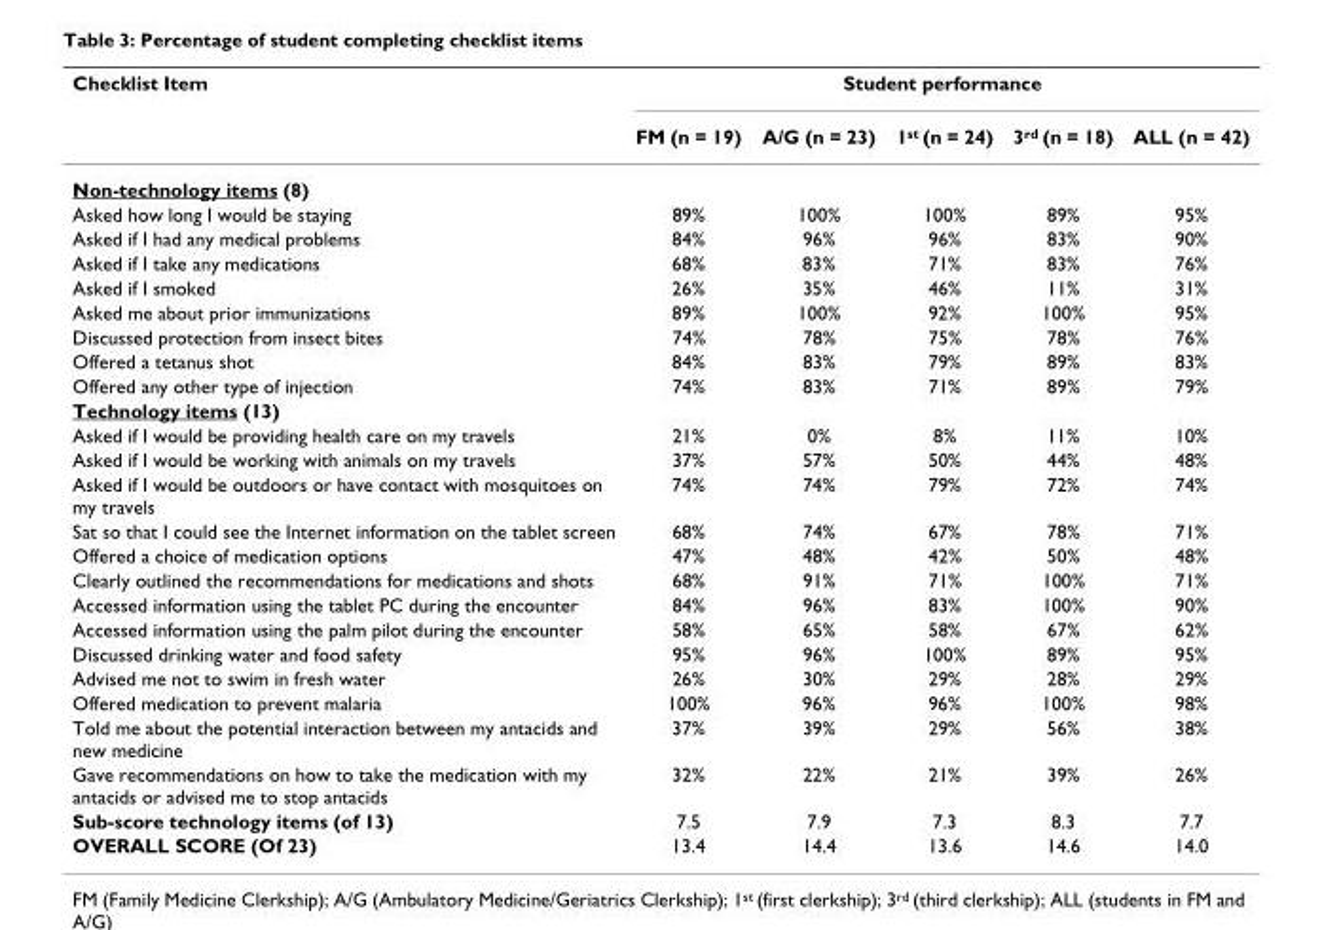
<table><thead><tr><td rowspan="2">Checklist Item</td><td colspan="5">Student performance</td></tr><tr><td>FM (n = 19)</td><td>A/G (n = 23)</td><td>1st (n = 24)</td><td>3rd (n = 18)</td><td>ALL (n = 42)</td></tr></thead><tbody><tr><td colspan="6">Non-technology items (8)</td></tr><tr><td>Asked how long I would be staying</td><td>89%</td><td>100%</td><td>100%</td><td>89%</td><td>95%</td></tr><tr><td>Asked if I had any medical problems</td><td>84%</td><td>96%</td><td>96%</td><td>83%</td><td>90%</td></tr><tr><td>Asked if I take any medications</td><td>68%</td><td>83%</td><td>71%</td><td>83%</td><td>76%</td></tr><tr><td>Asked if I smoked</td><td>26%</td><td>35%</td><td>46%</td><td>11%</td><td>31%</td></tr><tr><td>Asked me about prior immunizations</td><td>89%</td><td>100%</td><td>92%</td><td>100%</td><td>95%</td></tr><tr><td>Discussed protection from insect bites</td><td>74%</td><td>78%</td><td>75%</td><td>78%</td><td>76%</td></tr><tr><td>Offered a tetanus shot</td><td>84%</td><td>83%</td><td>79%</td><td>89%</td><td>83%</td></tr><tr><td>Offered any other type of injection</td><td>74%</td><td>83%</td><td>71%</td><td>89%</td><td>79%</td></tr><tr><td colspan="6">Technology items (13)</td></tr><tr><td>Asked if I would be providing health care on my travels</td><td>21%</td><td>0%</td><td>8%</td><td>11%</td><td>10%</td></tr><tr><td>Asked if I would be working with animals on my travels</td><td>37%</td><td>57%</td><td>50%</td><td>44%</td><td>48%</td></tr><tr><td>Asked if I would be outdoors or have contact with mosquitoes on my travels</td><td>74%</td><td>74%</td><td>79%</td><td>72%</td><td>74%</td></tr><tr><td>Sat so that I could see the Internet information on the tablet screen</td><td>68%</td><td>74%</td><td>67%</td><td>78%</td><td>71%</td></tr><tr><td>Offered a choice of medication options</td><td>47%</td><td>48%</td><td>42%</td><td>50%</td><td>48%</td></tr><tr><td>Clearly outlined the recommendations for medications and shots</td><td>68%</td><td>91%</td><td>71%</td><td>100%</td><td>71%</td></tr><tr><td>Accessed information using the tablet PC during the encounter</td><td>84%</td><td>96%</td><td>83%</td><td>100%</td><td>90%</td></tr><tr><td>Accessed information using the palm pilot during the encounter</td><td>58%</td><td>65%</td><td>58%</td><td>67%</td><td>62%</td></tr><tr><td>Discussed drinking water and food safety</td><td>95%</td><td>96%</td><td>100%</td><td>89%</td><td>95%</td></tr><tr><td>Advised me not to swim in fresh water</td><td>26%</td><td>30%</td><td>29%</td><td>28%</td><td>29%</td></tr><tr><td>Offered medication to prevent malaria</td><td>100%</td><td>96%</td><td>96%</td><td>100%</td><td>98%</td></tr><tr><td>Told me about the potential interaction between my antacids and new medicine</td><td>37%</td><td>39%</td><td>29%</td><td>56%</td><td>38%</td></tr><tr><td>Gave recommendations on how to take the medication with my antacids or advised me to stop antacids</td><td>32%</td><td>22%</td><td>21%</td><td>39%</td><td>26%</td></tr><tr><td>Sub-score technology items (of 13)</td><td>7.5</td><td>7.9</td><td>7.3</td><td>8.3</td><td>7.7</td></tr><tr><td>OVERALL SCORE (Of 23)</td><td>13.4</td><td>14.4</td><td>13.6</td><td>14.6</td><td>14.0</td></tr></tbody></table>